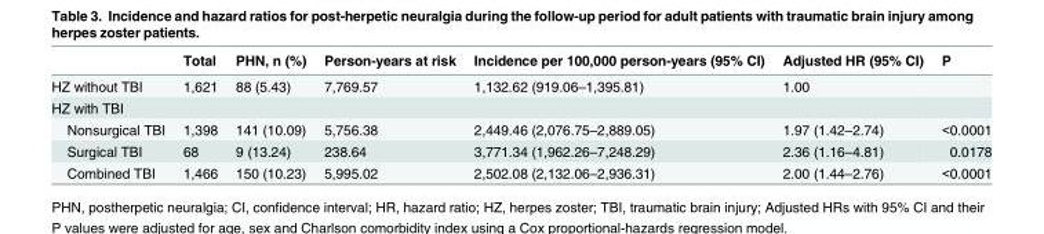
<table><thead><tr><td></td><td>Total</td><td>PHN, n (%)</td><td>Person-years at risk</td><td>Incidence per 100,000 person-years (95% CI)</td><td>Adjusted HR (95% CI)</td><td>P</td></tr></thead><tbody><tr><td>HZ without TBI</td><td>1,621</td><td>88 (5.43)</td><td>7,769.57</td><td>1,132.62 (919.06–1,395.81)</td><td>1.00</td><td></td></tr><tr><td colspan="7">HZ with TBI</td></tr><tr><td>Nonsurgical TBI</td><td>1,398</td><td>141 (10.09)</td><td>5,756.38</td><td>2,449.46 (2,076.75–2,889.05)</td><td>1.97 (1.42–2.74)</td><td>&lt;0.0001</td></tr><tr><td>Surgical TBI</td><td>68</td><td>9 (13.24)</td><td>238.64</td><td>3,771.34 (1,962.26–7,248.29)</td><td>2.36 (1.16–4.81)</td><td>0.0178</td></tr><tr><td>Combined TBI</td><td>1,466</td><td>150 (10.23)</td><td>5,995.02</td><td>2,502.08 (2,132.06–2,936.31)</td><td>2.00 (1.44–2.76)</td><td>&lt;0.0001</td></tr></tbody></table>